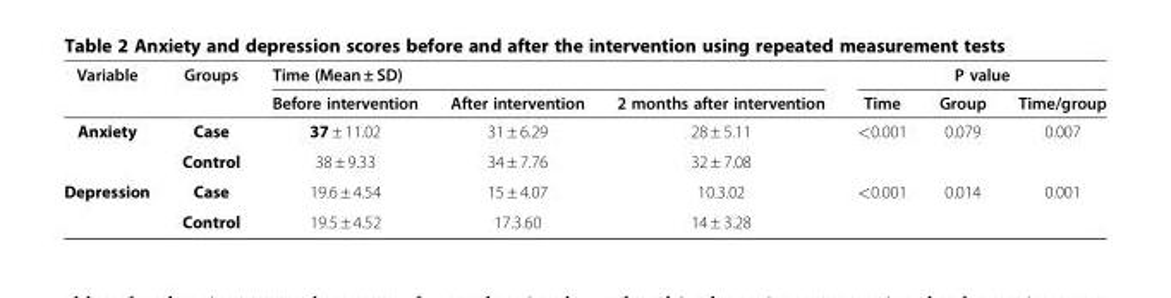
<table><thead><tr><td rowspan="2">Variable</td><td rowspan="2">Groups</td><td colspan="3">Time (Mean ± SD)</td><td colspan="3">P value</td></tr><tr><td>Before intervention</td><td>After intervention</td><td>2 months after intervention</td><td>Time</td><td>Group</td><td>Time/group</td></tr></thead><tbody><tr><td rowspan="2">Anxiety</td><td>Case</td><td>37 ± 11.02</td><td>31 ± 6.29</td><td>28 ± 5.11</td><td>&lt;0.001</td><td>0.079</td><td>0.007</td></tr><tr><td>Control</td><td>38 ± 9.33</td><td>34 ± 7.76</td><td>32 ± 7.08</td><td></td><td></td><td></td></tr><tr><td rowspan="2">Depression</td><td>Case</td><td>19.6 ± 4.54</td><td>15 ± 4.07</td><td>10.3.02</td><td>&lt;0.001</td><td>0.014</td><td>0.001</td></tr><tr><td>Control</td><td>19.5 ± 4.52</td><td>17.3.60</td><td>14 ± 3.28</td><td></td><td></td><td></td></tr></tbody></table>